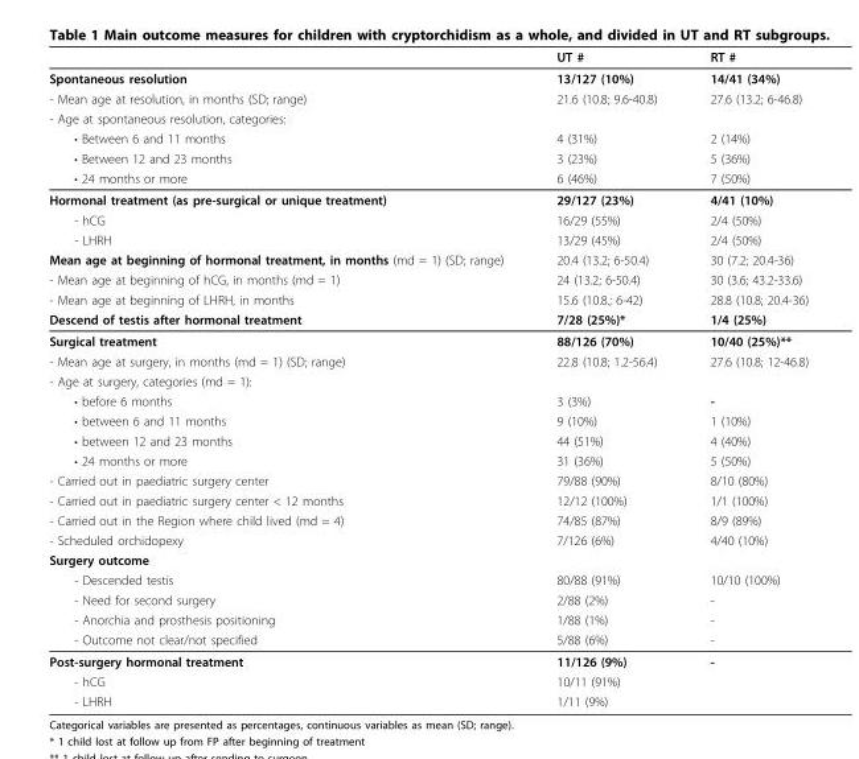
<table><thead><tr><td></td><td>UT #</td><td>RT #</td></tr></thead><tbody><tr><td>Spontaneous resolution</td><td>13/127 (10%)</td><td>14/41 (34%)</td></tr><tr><td>- Mean age at resolution, in months (SD; range)</td><td>21.6 (10.8; 9.6-40.8)</td><td>27.6 (13.2; 6-46.8)</td></tr><tr><td colspan="3">- Age at spontaneous resolution, categories:</td></tr><tr><td>• Between 6 and 11 months</td><td>4 (31%)</td><td>2 (14%)</td></tr><tr><td>• Between 12 and 23 months</td><td>3 (23%)</td><td>5 (36%)</td></tr><tr><td>• 24 months or more</td><td>6 (46%)</td><td>7 (50%)</td></tr><tr><td>Hormonal treatment (as pre-surgical or unique treatment)</td><td>29/127 (23%)</td><td>4/41 (10%)</td></tr><tr><td>- hCG</td><td>16/29 (55%)</td><td>2/4 (50%)</td></tr><tr><td>- LHRH</td><td>13/29 (45%)</td><td>2/4 (50%)</td></tr><tr><td>Mean age at beginning of hormonal treatment, in months (md = 1) (SD; range)</td><td>20.4 (13.2; 6-50.4)</td><td>30 (7.2; 20.4-36)</td></tr><tr><td>- Mean age at beginning of hCG, in months (md = 1)</td><td>24 (13.2; 6-50.4)</td><td>30 (3.6; 43.2-33.6)</td></tr><tr><td>- Mean age at beginning of LHRH, in months</td><td>15.6 (10.8.; 6-42)</td><td>28.8 (10.8; 20.4-36)</td></tr><tr><td>Descend of testis after hormonal treatment</td><td>7/28 (25%)*</td><td>1/4 (25%)</td></tr><tr><td>Surgical treatment</td><td>88/126 (70%)</td><td>10/40 (25%)**</td></tr><tr><td>- Mean age at surgery, in months (md = 1) (SD; range)</td><td>22.8 (10.8; 1.2-56.4)</td><td>27.6 (10.8; 12-46.8)</td></tr><tr><td colspan="3">- Age at surgery, categories (md = 1):</td></tr><tr><td>• before 6 months</td><td>3 (3%)</td><td>-</td></tr><tr><td>• between 6 and 11 months</td><td>9 (10%)</td><td>1 (10%)</td></tr><tr><td>• between 12 and 23 months</td><td>44 (51%)</td><td>4 (40%)</td></tr><tr><td>• 24 months or more</td><td>31 (36%)</td><td>5 (50%)</td></tr><tr><td>- Carried out in paediatric surgery center</td><td>79/88 (90%)</td><td>8/10 (80%)</td></tr><tr><td>- Carried out in paediatric surgery center &lt; 12 months</td><td>12/12 (100%)</td><td>1/1 (100%)</td></tr><tr><td>- Carried out in the Region where child lived (md = 4)</td><td>74/85 (87%)</td><td>8/9 (89%)</td></tr><tr><td>- Scheduled orchidopexy</td><td>7/126 (6%)</td><td>4/40 (10%)</td></tr><tr><td colspan="3">Surgery outcome</td></tr><tr><td>- Descended testis</td><td>80/88 (91%)</td><td>10/10 (100%)</td></tr><tr><td>- Need for second surgery</td><td>2/88 (2%)</td><td>-</td></tr><tr><td>- Anorchia and prosthesis positioning</td><td>1/88 (1%)</td><td>-</td></tr><tr><td>- Outcome not clear/not specified</td><td>5/88 (6%)</td><td>-</td></tr><tr><td>Post-surgery hormonal treatment</td><td>11/126 (9%)</td><td>-</td></tr><tr><td>- hCG</td><td>10/11 (91%)</td><td></td></tr><tr><td>- LHRH</td><td>1/11 (9%)</td><td></td></tr></tbody></table>